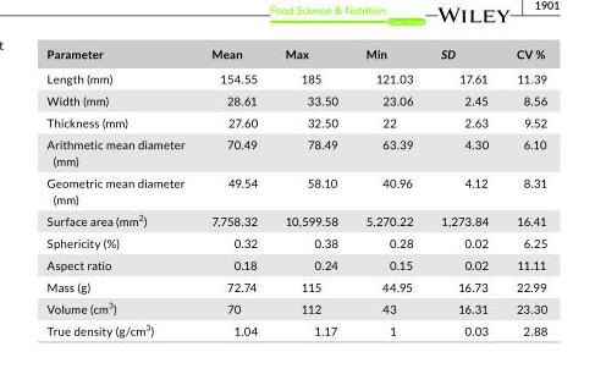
<table><thead><tr><td>Parameter</td><td>Mean</td><td>Max</td><td>Min</td><td>SD</td><td>CV %</td></tr></thead><tbody><tr><td>Length (mm)</td><td>154.55</td><td>185</td><td>121.03</td><td>17.61</td><td>11.39</td></tr><tr><td>Width (mm)</td><td>28.61</td><td>33.50</td><td>23.06</td><td>2.45</td><td>8.56</td></tr><tr><td>Thickness (mm)</td><td>27.60</td><td>32.50</td><td>22</td><td>2.63</td><td>9.52</td></tr><tr><td>Arithmetic mean diameter (mm)</td><td>70.49</td><td>78.49</td><td>63.39</td><td>4.30</td><td>6.10</td></tr><tr><td>Geometric mean diameter (mm)</td><td>49.54</td><td>58.10</td><td>40.96</td><td>4.12</td><td>8.31</td></tr><tr><td>Surface area (mm<sup>2</sup>)</td><td>7,758.32</td><td>10,599.58</td><td>5,270.22</td><td>1,273.84</td><td>16.41</td></tr><tr><td>Sphericity (%)</td><td>0.32</td><td>0.38</td><td>0.28</td><td>0.02</td><td>6.25</td></tr><tr><td>Aspect ratio</td><td>0.18</td><td>0.24</td><td>0.15</td><td>0.02</td><td>11.11</td></tr><tr><td>Mass (g)</td><td>72.74</td><td>115</td><td>44.95</td><td>16.73</td><td>22.99</td></tr><tr><td>Volume (cm<sup>3</sup>)</td><td>70</td><td>112</td><td>43</td><td>16.31</td><td>23.30</td></tr><tr><td>True density (g/cm<sup>3</sup>)</td><td>1.04</td><td>1.17</td><td>1</td><td>0.03</td><td>2.88</td></tr></tbody></table>